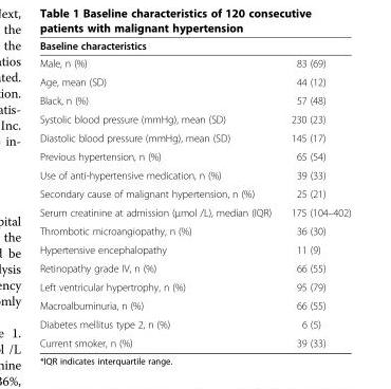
<table><thead><tr><td colspan="2">Baseline characteristics</td></tr><tr><td>Male, n (%)</td><td>83 (69)</td></tr></thead><tbody><tr><td>Age, mean (SD)</td><td>44 (12)</td></tr><tr><td>Black, n (%)</td><td>57 (48)</td></tr><tr><td>Systolic blood pressure (mmHg), mean (SD)</td><td>230 (23)</td></tr><tr><td>Diastolic blood pressure (mmHg), mean (SD)</td><td>145 (17)</td></tr><tr><td>Previous hypertension, n (%)</td><td>65 (54)</td></tr><tr><td>Use of anti-hypertensive medication, n (%)</td><td>39 (33)</td></tr><tr><td>Secondary cause of malignant hypertension, n (%)</td><td>25 (21)</td></tr><tr><td>Serum creatinine at admission (μmol /L), median (IQR)</td><td>175 (104–402)</td></tr><tr><td>Thrombotic microangiopathy, n (%)</td><td>36 (30)</td></tr><tr><td>Hypertensive encephalopathy</td><td>11 (9)</td></tr><tr><td>Retinopathy grade IV, n (%)</td><td>66 (55)</td></tr><tr><td>Left ventricular hypertrophy, n (%)</td><td>95 (79)</td></tr><tr><td>Macroalbuminuria, n (%)</td><td>66 (55)</td></tr><tr><td>Diabetes mellitus type 2, n (%)</td><td>6 (5)</td></tr><tr><td>Current smoker, n (%)</td><td>39 (33)</td></tr></tbody></table>